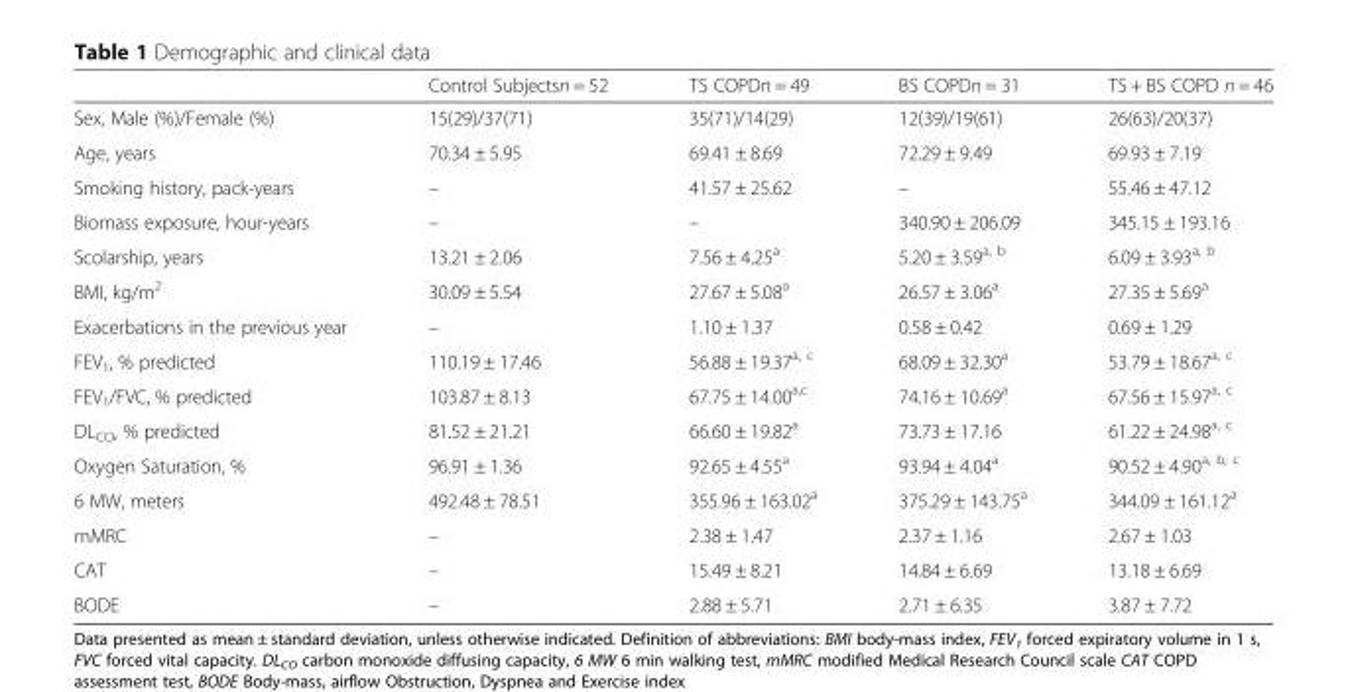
<table><thead><tr><td></td><td>Control Subjectsn = 52</td><td>TS COPDn = 49</td><td>BS COPDn = 31</td><td>TS + BS COPD n = 46</td></tr></thead><tbody><tr><td>Sex, Male (%)/Female (%)</td><td>15(29)/37(71)</td><td>35(71)/14(29)</td><td>12(39)/19(61)</td><td>26(63)/20(37)</td></tr><tr><td>Age, years</td><td>70.34 ± 5.95</td><td>69.41 ± 8.69</td><td>72.29 ± 9.49</td><td>69.93 ± 7.19</td></tr><tr><td>Smoking history, pack-years</td><td>–</td><td>41.57 ± 25.62</td><td>–</td><td>55.46 ± 47.12</td></tr><tr><td>Biomass exposure, hour-years</td><td>–</td><td>–</td><td>340.90 ± 206.09</td><td>345.15 ± 193.16</td></tr><tr><td>Scolarship, years</td><td>13.21 ± 2.06</td><td>7.56 ± 4.25<sup>a</sup></td><td>5.20 ± 3.59<sup>a, b</sup></td><td>6.09 ± 3.93<sup>a, b</sup></td></tr><tr><td>BMI, kg/m<sup>2</sup></td><td>30.09 ± 5.54</td><td>27.67 ± 5.08<sup>a</sup></td><td>26.57 ± 3.06<sup>a</sup></td><td>27.35 ± 5.69<sup>a</sup></td></tr><tr><td>Exacerbations in the previous year</td><td>–</td><td>1.10 ± 1.37</td><td>0.58 ± 0.42</td><td>0.69 ± 1.29</td></tr><tr><td>FEV<sub>1</sub>, % predicted</td><td>110.19 ± 17.46</td><td>56.88 ± 19.37<sup>a, c</sup></td><td>68.09 ± 32.30<sup>a</sup></td><td>53.79 ± 18.67<sup>a, c</sup></td></tr><tr><td>FEV<sub>1</sub>/FVC, % predicted</td><td>103.87 ± 8.13</td><td>67.75 ± 14.00<sup>a,c</sup></td><td>74.16 ± 10.69<sup>a</sup></td><td>67.56 ± 15.97<sup>a, c</sup></td></tr><tr><td>DL<sub>CO</sub>, % predicted</td><td>81.52 ± 21.21</td><td>66.60 ± 19.82<sup>a</sup></td><td>73.73 ± 17.16</td><td>61.22 ± 24.98<sup>a, c</sup></td></tr><tr><td>Oxygen Saturation, %</td><td>96.91 ± 1.36</td><td>92.65 ± 4.55<sup>a</sup></td><td>93.94 ± 4.04<sup>a</sup></td><td>90.52 ± 4.90<sup>a, b, c</sup></td></tr><tr><td>6 MW, meters</td><td>492.48 ± 78.51</td><td>355.96 ± 163.02<sup>a</sup></td><td>375.29 ± 143.75<sup>a</sup></td><td>344.09 ± 161.12<sup>a</sup></td></tr><tr><td>mMRC</td><td>–</td><td>2.38 ± 1.47</td><td>2.37 ± 1.16</td><td>2.67 ± 1.03</td></tr><tr><td>CAT</td><td>–</td><td>15.49 ± 8.21</td><td>14.84 ± 6.69</td><td>13.18 ± 6.69</td></tr><tr><td>BODE</td><td>–</td><td>2.88 ± 5.71</td><td>2.71 ± 6.35</td><td>3.87 ± 7.72</td></tr></tbody></table>